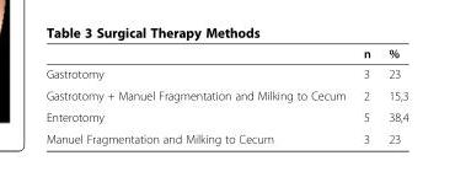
<table><thead><tr><td></td><td>n</td><td>%</td></tr></thead><tbody><tr><td>Gastrotomy</td><td>3</td><td>23</td></tr><tr><td>Gastrotomy + Manuel Fragmentation and Milking to Cecum</td><td>2</td><td>15,3</td></tr><tr><td>Enterotomy</td><td>5</td><td>38,4</td></tr><tr><td>Manuel Fragmentation and Milking to Cecum</td><td>3</td><td>23</td></tr></tbody></table>